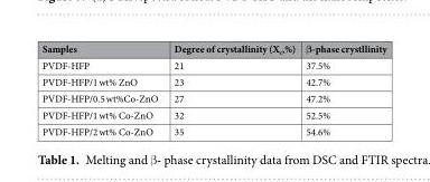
<table><thead><tr><td>Samples</td><td>Degree of crystallinity (X<sub>c</sub>,%)</td><td>β-phase crystllinity</td></tr></thead><tbody><tr><td>PVDF-HFP</td><td>21</td><td>37.5%</td></tr><tr><td>PVDF-HFP/1 wt% ZnO</td><td>23</td><td>42.7%</td></tr><tr><td>PVDF-HFP/0.5 wt%Co-ZnO</td><td>27</td><td>47.2%</td></tr><tr><td>PVDF-HFP/1 wt% Co-ZnO</td><td>32</td><td>52.5%</td></tr><tr><td>PVDF-HFP/2 wt% Co-ZnO</td><td>35</td><td>54.6%</td></tr></tbody></table>